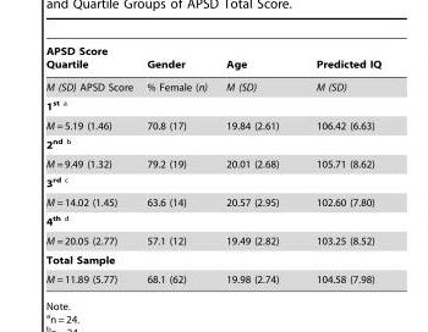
<table><thead><tr><td>APSD Score Quartile</td><td>Gender</td><td>Age</td><td>Predicted IQ</td></tr></thead><tbody><tr><td>M (SD) APSD Score</td><td>% Female (n)</td><td>M (SD)</td><td>M (SD)</td></tr><tr><td colspan="4">1<sup>st</sup> a</td></tr><tr><td>M = 5.19 (1.46)</td><td>70.8 (17)</td><td>19.84 (2.61)</td><td>106.42 (6.63)</td></tr><tr><td colspan="4">2<sup>nd</sup> b</td></tr><tr><td>M = 9.49 (1.32)</td><td>79.2 (19)</td><td>20.01 (2.68)</td><td>105.71 (8.62)</td></tr><tr><td colspan="4">3<sup>rd</sup> c</td></tr><tr><td>M = 14.02 (1.45)</td><td>63.6 (14)</td><td>20.57 (2.95)</td><td>102.60 (7.80)</td></tr><tr><td colspan="4">4<sup>th</sup> d</td></tr><tr><td>M = 20.05 (2.77)</td><td>57.1 (12)</td><td>19.49 (2.82)</td><td>103.25 (8.52)</td></tr><tr><td colspan="4">Total Sample</td></tr><tr><td>M = 11.89 (5.77)</td><td>68.1 (62)</td><td>19.98 (2.74)</td><td>104.58 (7.98)</td></tr></tbody></table>